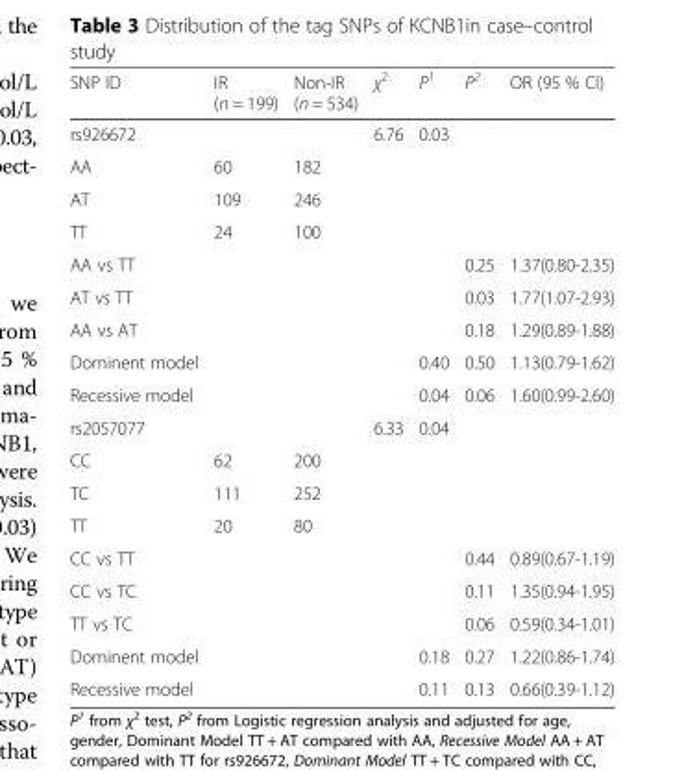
<table><thead><tr><td>SNP ID</td><td>IR (n = 199)</td><td>Non-IR (n = 534)</td><td>χ<sup>2</sup></td><td>P<sup>1</sup></td><td>P<sup>2</sup></td><td>OR (95 % CI)</td></tr></thead><tbody><tr><td>rs926672</td><td></td><td></td><td>6.76</td><td>0.03</td><td></td><td></td></tr><tr><td>AA</td><td>60</td><td>182</td><td></td><td></td><td></td><td></td></tr><tr><td>AT</td><td>109</td><td>246</td><td></td><td></td><td></td><td></td></tr><tr><td>TT</td><td>24</td><td>100</td><td></td><td></td><td></td><td></td></tr><tr><td>AA vs TT</td><td></td><td></td><td></td><td></td><td>0.25</td><td>1.37(0.80-2.35)</td></tr><tr><td>AT vs TT</td><td></td><td></td><td></td><td></td><td>0.03</td><td>1.77(1.07-2.93)</td></tr><tr><td>AA vs AT</td><td></td><td></td><td></td><td></td><td>0.18</td><td>1.29(0.89-1.88)</td></tr><tr><td>Dominent model</td><td></td><td></td><td></td><td>0.40</td><td>0.50</td><td>1.13(0.79-1.62)</td></tr><tr><td>Recessive model</td><td></td><td></td><td></td><td>0.04</td><td>0.06</td><td>1.60(0.99-2.60)</td></tr><tr><td>rs2057077</td><td></td><td></td><td>6.33</td><td>0.04</td><td></td><td></td></tr><tr><td>CC</td><td>62</td><td>200</td><td></td><td></td><td></td><td></td></tr><tr><td>TC</td><td>111</td><td>252</td><td></td><td></td><td></td><td></td></tr><tr><td>TT</td><td>20</td><td>80</td><td></td><td></td><td></td><td></td></tr><tr><td>CC vs TT</td><td></td><td></td><td></td><td></td><td>0.44</td><td>0.89(0.67-1.19)</td></tr><tr><td>CC vs TC</td><td></td><td></td><td></td><td></td><td>0.11</td><td>1.35(0.94-1.95)</td></tr><tr><td>TT vs TC</td><td></td><td></td><td></td><td></td><td>0.06</td><td>0.59(0.34-1.01)</td></tr><tr><td>Dominent model</td><td></td><td></td><td></td><td>0.18</td><td>0.27</td><td>1.22(0.86-1.74)</td></tr><tr><td>Recessive model</td><td></td><td></td><td></td><td>0.11</td><td>0.13</td><td>0.66(0.39-1.12)</td></tr></tbody></table>